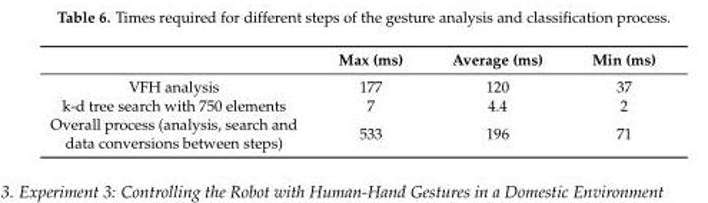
<table><thead><tr><td></td><td>Max (ms)</td><td>Average (ms)</td><td>Min (ms)</td></tr></thead><tbody><tr><td>VFH analysis</td><td>177</td><td>120</td><td>37</td></tr><tr><td>k-d tree search with 750 elements</td><td>7</td><td>4.4</td><td>2</td></tr><tr><td>Overall process (analysis, search and data conversions between steps)</td><td>533</td><td>196</td><td>71</td></tr></tbody></table>